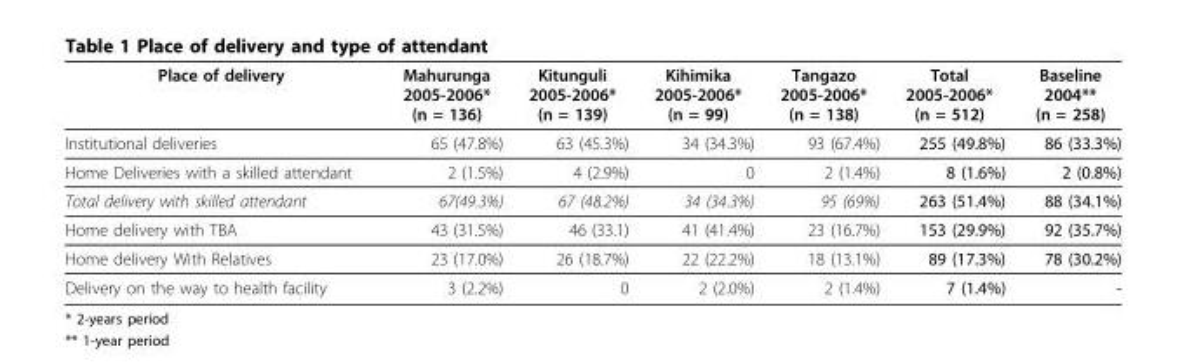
<table><thead><tr><td>Place of delivery</td><td>Mahurunga 2005-2006* (n = 136)</td><td>Kitunguli 2005-2006* (n = 139)</td><td>Kihimika 2005-2006* (n = 99)</td><td>Tangazo 2005-2006* (n = 138)</td><td>Total 2005-2006* (n = 512)</td><td>Baseline 2004** (n = 258)</td></tr></thead><tbody><tr><td>Institutional deliveries</td><td>65 (47.8%)</td><td>63 (45.3%)</td><td>34 (34.3%)</td><td>93 (67.4%)</td><td>255 (49.8%)</td><td>86 (33.3%)</td></tr><tr><td>Home Deliveries with a skilled attendant</td><td>2 (1.5%)</td><td>4 (2.9%)</td><td>0</td><td>2 (1.4%)</td><td>8 (1.6%)</td><td>2 (0.8%)</td></tr><tr><td>Total delivery with skilled attendant</td><td>67(49.3%)</td><td>67 (48.2%)</td><td>34 (34.3%)</td><td>95 (69%)</td><td>263 (51.4%)</td><td>88 (34.1%)</td></tr><tr><td>Home delivery with TBA</td><td>43 (31.5%)</td><td>46 (33.1)</td><td>41 (41.4%)</td><td>23 (16.7%)</td><td>153 (29.9%)</td><td>92 (35.7%)</td></tr><tr><td>Home delivery With Relatives</td><td>23 (17.0%)</td><td>26 (18.7%)</td><td>22 (22.2%)</td><td>18 (13.1%)</td><td>89 (17.3%)</td><td>78 (30.2%)</td></tr><tr><td>Delivery on the way to health facility</td><td>3 (2.2%)</td><td>0</td><td>2 (2.0%)</td><td>2 (1.4%)</td><td>7 (1.4%)</td><td>-</td></tr></tbody></table>